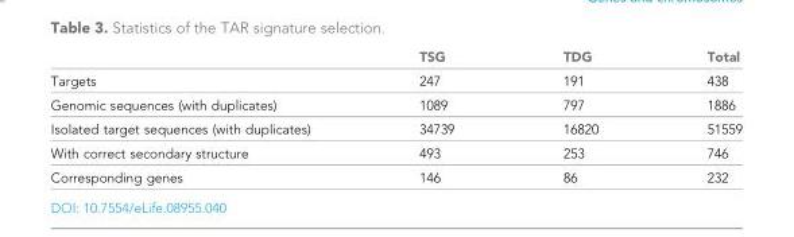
<table><thead><tr><td></td><td>TSG</td><td>TDG</td><td>Total</td></tr></thead><tbody><tr><td>Targets</td><td>247</td><td>191</td><td>438</td></tr><tr><td>Genomic sequences (with duplicates)</td><td>1089</td><td>797</td><td>1886</td></tr><tr><td>Isolated target sequences (with duplicates)</td><td>34739</td><td>16820</td><td>51559</td></tr><tr><td>With correct secondary structure</td><td>493</td><td>253</td><td>746</td></tr><tr><td>Corresponding genes</td><td>146</td><td>86</td><td>232</td></tr></tbody></table>